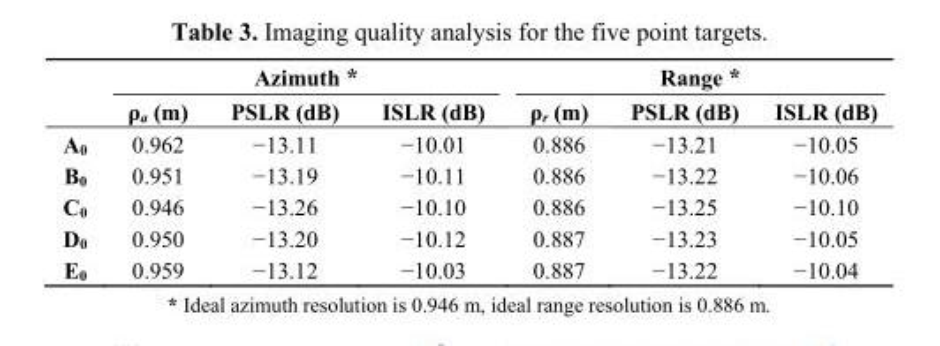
<table><thead><tr><td rowspan="2"></td><td colspan="3">Azimuth *</td><td colspan="3">Range *</td></tr><tr><td>ρ<sub>a</sub> (m)</td><td>PSLR (dB)</td><td>ISLR (dB)</td><td>ρ<sub>r</sub> (m)</td><td>PSLR (dB)</td><td>ISLR (dB)</td></tr></thead><tbody><tr><td>A<sub>0</sub></td><td>0.962</td><td>−13.11</td><td>−10.01</td><td>0.886</td><td>−13.21</td><td>−10.05</td></tr><tr><td>B<sub>0</sub></td><td>0.951</td><td>−13.19</td><td>−10.11</td><td>0.886</td><td>−13.22</td><td>−10.06</td></tr><tr><td>C<sub>0</sub></td><td>0.946</td><td>−13.26</td><td>−10.10</td><td>0.886</td><td>−13.25</td><td>−10.10</td></tr><tr><td>D<sub>0</sub></td><td>0.950</td><td>−13.20</td><td>−10.12</td><td>0.887</td><td>−13.23</td><td>−10.05</td></tr><tr><td>E<sub>0</sub></td><td>0.959</td><td>−13.12</td><td>−10.03</td><td>0.887</td><td>−13.22</td><td>−10.04</td></tr></tbody></table>